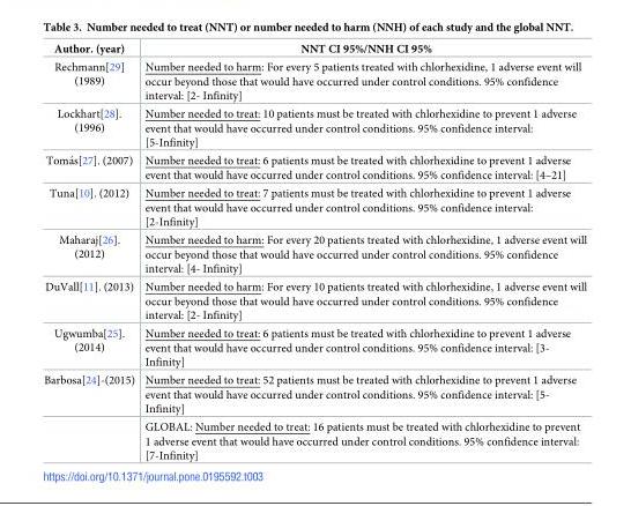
<table><thead><tr><td>Author. (year)</td><td>NNT CI 95%/NNH CI 95%</td></tr></thead><tbody><tr><td>Rechmann[29] (1989)</td><td>Number needed to harm: For every 5 patients treated with chlorhexidine, 1 adverse event will occur beyond those that would have occurred under control conditions. 95% confidence interval: [2- Infinity]</td></tr><tr><td>Lockhart[28]. (1996)</td><td>Number needed to treat: 10 patients must be treated with chlorhexidine to prevent 1 adverse event that would have occurred under control conditions. 95% confidence interval: [5-Infinity]</td></tr><tr><td>Toma´s[27]. (2007)</td><td>Number needed to treat: 6 patients must be treated with chlorhexidine to prevent 1 adverse event that would have occurred under control conditions. 95% confidence interval: [4–21]</td></tr><tr><td>Tuna[10]. (2012)</td><td>Number needed to treat: 7 patients must be treated with chlorhexidine to prevent 1 adverse event that would have occurred under control conditions. 95% confidence interval: [2-Infinity]</td></tr><tr><td>Maharaj[26]. (2012)</td><td>Number needed to harm: For every 20 patients treated with chlorhexidine, 1 adverse event will occur beyond those that would have occurred under control conditions. 95% confidence interval: [4- Infinity]</td></tr><tr><td>DuVall[11]. (2013)</td><td>Number needed to harm: For every 10 patients treated with chlorhexidine, 1 adverse event will occur beyond those that would have occurred under control conditions. 95% confidence interval: [2- Infinity]</td></tr><tr><td>Ugwumba[25]. (2014)</td><td>Number needed to treat: 6 patients must be treated with chlorhexidine to prevent 1 adverse event that would have occurred under control conditions. 95% confidence interval: [3- Infinity]</td></tr><tr><td rowspan="2">Barbosa[24]-(2015)</td><td>Number needed to treat: 52 patients must be treated with chlorhexidine to prevent 1 adverse event that would have occurred under control conditions. 95% confidence interval: [5- Infinity]</td></tr><tr><td>GLOBAL: Number needed to treat: 16 patients must be treated with chlorhexidine to prevent 1 adverse event that would have occurred under control conditions. 95% confidence interval: [7-Infinity]</td></tr></tbody></table>